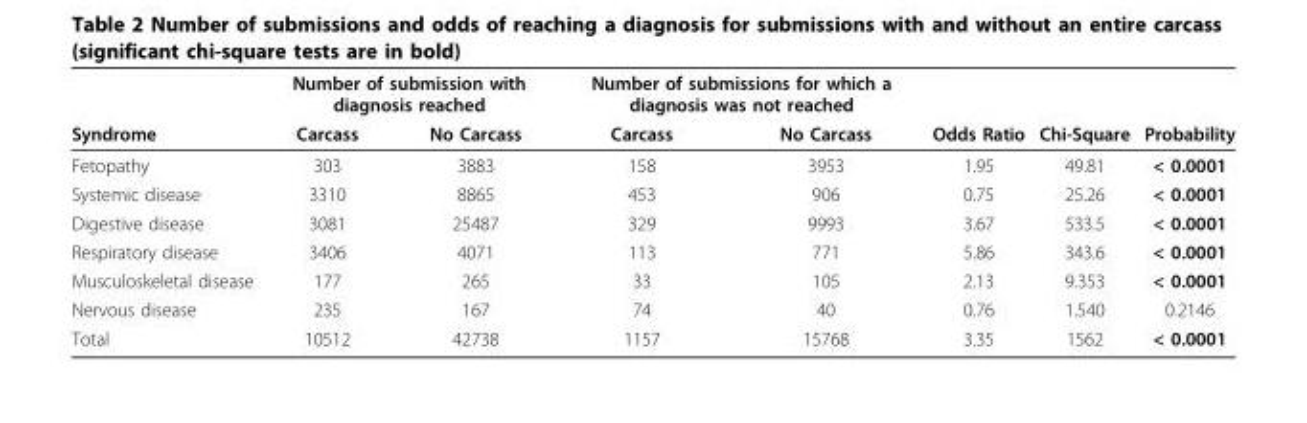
<table><thead><tr><td rowspan="2">Syndrome</td><td colspan="2">Number of submission with diagnosis reached</td><td colspan="2">Number of submissions for which a diagnosis was not reached</td><td rowspan="2">Odds Ratio</td><td rowspan="2">Chi-Square</td><td rowspan="2">Probability</td></tr><tr><td>Carcass</td><td>No Carcass</td><td>Carcass</td><td>No Carcass</td></tr></thead><tbody><tr><td>Fetopathy</td><td>303</td><td>3883</td><td>158</td><td>3953</td><td>1.95</td><td>49.81</td><td>&lt; 0.0001</td></tr><tr><td>Systemic disease</td><td>3310</td><td>8865</td><td>453</td><td>906</td><td>0.75</td><td>25.26</td><td>&lt; 0.0001</td></tr><tr><td>Digestive disease</td><td>3081</td><td>25487</td><td>329</td><td>9993</td><td>3.67</td><td>533.5</td><td>&lt; 0.0001</td></tr><tr><td>Respiratory disease</td><td>3406</td><td>4071</td><td>113</td><td>771</td><td>5.86</td><td>343.6</td><td>&lt; 0.0001</td></tr><tr><td>Musculoskeletal disease</td><td>177</td><td>265</td><td>33</td><td>105</td><td>2.13</td><td>9.353</td><td>&lt; 0.0001</td></tr><tr><td>Nervous disease</td><td>235</td><td>167</td><td>74</td><td>40</td><td>0.76</td><td>1.540</td><td>0.2146</td></tr><tr><td>Total</td><td>10512</td><td>42738</td><td>1157</td><td>15768</td><td>3.35</td><td>1562</td><td>&lt; 0.0001</td></tr></tbody></table>